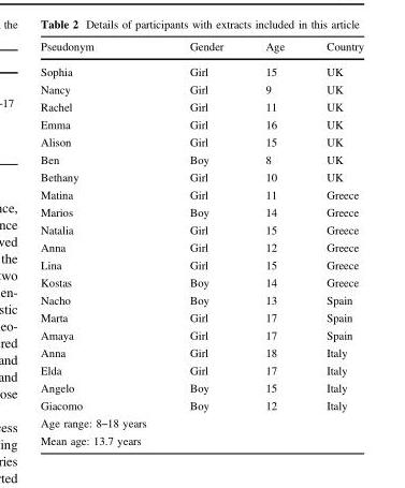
<table><thead><tr><td>Pseudonym</td><td>Gender</td><td>Age</td><td>Country</td></tr></thead><tbody><tr><td>Sophia</td><td>Girl</td><td>15</td><td>UK</td></tr><tr><td>Nancy</td><td>Girl</td><td>9</td><td>UK</td></tr><tr><td>Rachel</td><td>Girl</td><td>11</td><td>UK</td></tr><tr><td>Emma</td><td>Girl</td><td>16</td><td>UK</td></tr><tr><td>Alison</td><td>Girl</td><td>15</td><td>UK</td></tr><tr><td>Ben</td><td>Boy</td><td>8</td><td>UK</td></tr><tr><td>Bethany</td><td>Girl</td><td>10</td><td>UK</td></tr><tr><td>Matina</td><td>Girl</td><td>11</td><td>Greece</td></tr><tr><td>Marios</td><td>Boy</td><td>14</td><td>Greece</td></tr><tr><td>Natalia</td><td>Girl</td><td>15</td><td>Greece</td></tr><tr><td>Anna</td><td>Girl</td><td>12</td><td>Greece</td></tr><tr><td>Lina</td><td>Girl</td><td>15</td><td>Greece</td></tr><tr><td>Kostas</td><td>Boy</td><td>14</td><td>Greece</td></tr><tr><td>Nacho</td><td>Boy</td><td>13</td><td>Spain</td></tr><tr><td>Marta</td><td>Girl</td><td>17</td><td>Spain</td></tr><tr><td>Amaya</td><td>Girl</td><td>17</td><td>Spain</td></tr><tr><td>Anna</td><td>Girl</td><td>18</td><td>Italy</td></tr><tr><td>Elda</td><td>Girl</td><td>17</td><td>Italy</td></tr><tr><td>Angelo</td><td>Boy</td><td>15</td><td>Italy</td></tr><tr><td>Giacomo</td><td>Boy</td><td>12</td><td>Italy</td></tr><tr><td colspan="4">Age range: 8–18 years</td></tr><tr><td>Mean age: 13.7 years</td><td></td><td></td><td></td></tr></tbody></table>